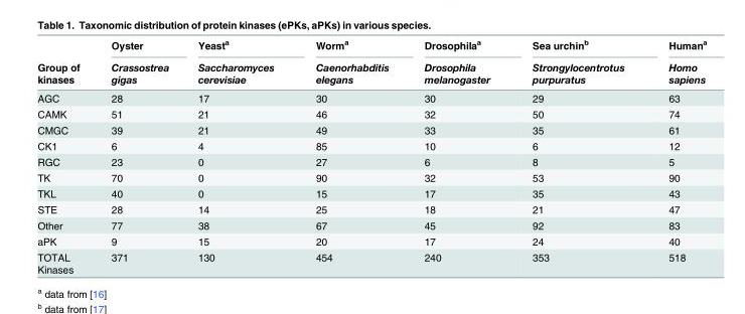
<table><thead><tr><td rowspan="2">Group of kinases</td><td rowspan="2">Oyster Crassostrea gigas</td><td rowspan="2">Yeast<sup>a</sup> Saccharomyces cerevisiae</td><td rowspan="2">Worm<sup>a</sup> Caenorhabditis elegans</td><td rowspan="2">Drosophila<sup>a</sup> Drosophila melanogaster</td><td rowspan="2">Sea urchin<sup>b</sup> Strongylocentrotus purpuratus</td><td rowspan="2">Human<sup>a</sup> Homo sapiens</td></tr><tr></tr></thead><tbody><tr><td>AGC</td><td>28</td><td>17</td><td>30</td><td>30</td><td>29</td><td>63</td></tr><tr><td>CAMK</td><td>51</td><td>21</td><td>46</td><td>32</td><td>50</td><td>74</td></tr><tr><td>CMGC</td><td>39</td><td>21</td><td>49</td><td>33</td><td>35</td><td>61</td></tr><tr><td>CK1</td><td>6</td><td>4</td><td>85</td><td>10</td><td>6</td><td>12</td></tr><tr><td>RGC</td><td>23</td><td>0</td><td>27</td><td>6</td><td>8</td><td>5</td></tr><tr><td>TK</td><td>70</td><td>0</td><td>90</td><td>32</td><td>53</td><td>90</td></tr><tr><td>TKL</td><td>40</td><td>0</td><td>15</td><td>17</td><td>35</td><td>43</td></tr><tr><td>STE</td><td>28</td><td>14</td><td>25</td><td>18</td><td>21</td><td>47</td></tr><tr><td>Other</td><td>77</td><td>38</td><td>67</td><td>45</td><td>92</td><td>83</td></tr><tr><td>aPK</td><td>9</td><td>15</td><td>20</td><td>17</td><td>24</td><td>40</td></tr><tr><td>TOTAL Kinases</td><td>371</td><td>130</td><td>454</td><td>240</td><td>353</td><td>518</td></tr></tbody></table>